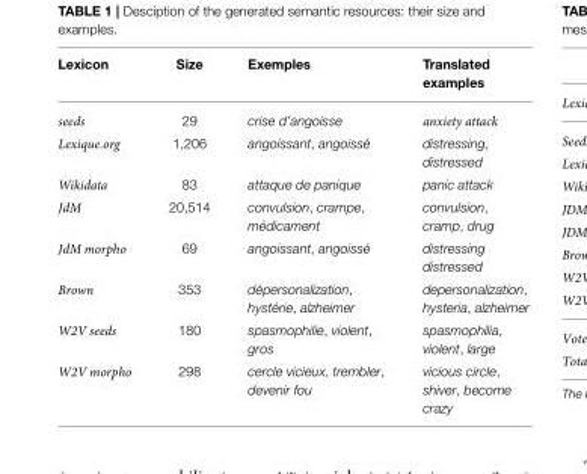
<table><thead><tr><td>Lexicon</td><td>Size</td><td>Exemples</td><td>Translated examples</td></tr></thead><tbody><tr><td>seeds</td><td>29</td><td>crise d’angoisse</td><td>anxiety attack</td></tr><tr><td>Lexique.org</td><td>1,206</td><td>angoissant, angoissé</td><td>distressing, distressed</td></tr><tr><td>Wikidata</td><td>83</td><td>attaque de panique</td><td>panic attack</td></tr><tr><td>JdM</td><td>20,514</td><td>convulsion, crampe, médicament</td><td>convulsion, cramp, drug</td></tr><tr><td>JdM morpho</td><td>69</td><td>angoissant, angoissé</td><td>distressing distressed</td></tr><tr><td>Brown</td><td>353</td><td>dépersonalization, hystérie, alzheimer</td><td>depersonalization, hysteria, alzheimer</td></tr><tr><td>W2V seeds</td><td>180</td><td>spasmophilie, violent, gros</td><td>spasmophilia, violent, large</td></tr><tr><td>W2V morpho</td><td>298</td><td>cercle vicieux, trembler, devenir fou</td><td>vicious circle, shiver, become crazy</td></tr></tbody></table>